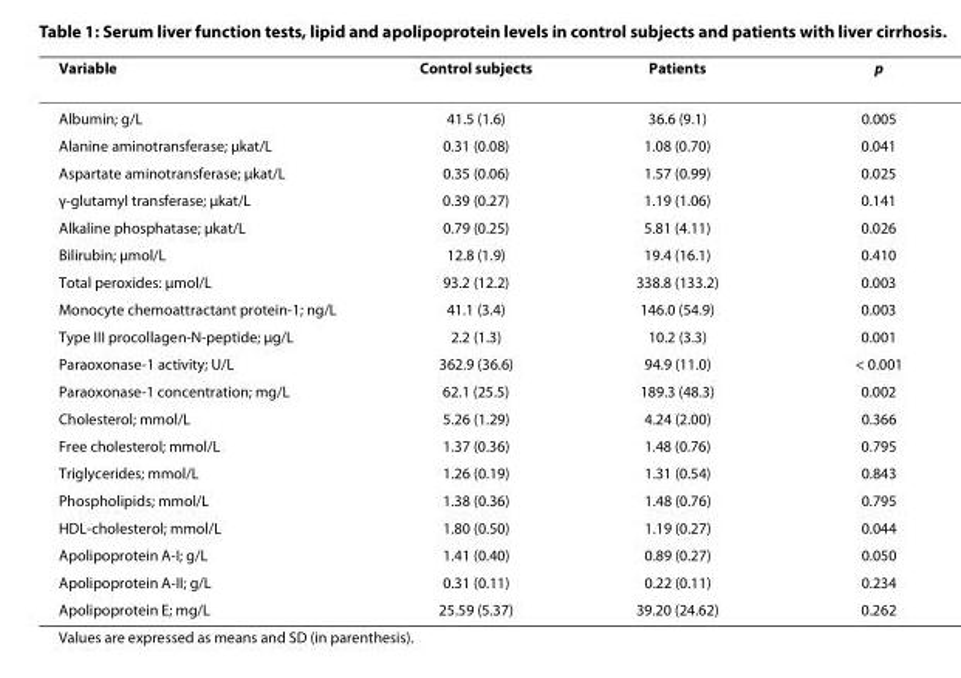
<table><thead><tr><td>Variable</td><td>Control subjects</td><td>Patients</td><td>p</td></tr></thead><tbody><tr><td>Albumin; g/L</td><td>41.5 (1.6)</td><td>36.6 (9.1)</td><td>0.005</td></tr><tr><td>Alanine aminotransferase; μkat/L</td><td>0.31 (0.08)</td><td>1.08 (0.70)</td><td>0.041</td></tr><tr><td>Aspartate aminotransferase; μkat/L</td><td>0.35 (0.06)</td><td>1.57 (0.99)</td><td>0.025</td></tr><tr><td>γ-glutamyl transferase; μkat/L</td><td>0.39 (0.27)</td><td>1.19 (1.06)</td><td>0.141</td></tr><tr><td>Alkaline phosphatase; μkat/L</td><td>0.79 (0.25)</td><td>5.81 (4.11)</td><td>0.026</td></tr><tr><td>Bilirubin; μmol/L</td><td>12.8 (1.9)</td><td>19.4 (16.1)</td><td>0.410</td></tr><tr><td>Total peroxides: μmol/L</td><td>93.2 (12.2)</td><td>338.8 (133.2)</td><td>0.003</td></tr><tr><td>Monocyte chemoattractant protein-1; ng/L</td><td>41.1 (3.4)</td><td>146.0 (54.9)</td><td>0.003</td></tr><tr><td>Type III procollagen-N-peptide; μg/L</td><td>2.2 (1.3)</td><td>10.2 (3.3)</td><td>0.001</td></tr><tr><td>Paraoxonase-1 activity; U/L</td><td>362.9 (36.6)</td><td>94.9 (11.0)</td><td>&lt; 0.001</td></tr><tr><td>Paraoxonase-1 concentration; mg/L</td><td>62.1 (25.5)</td><td>189.3 (48.3)</td><td>0.002</td></tr><tr><td>Cholesterol; mmol/L</td><td>5.26 (1.29)</td><td>4.24 (2.00)</td><td>0.366</td></tr><tr><td>Free cholesterol; mmol/L</td><td>1.37 (0.36)</td><td>1.48 (0.76)</td><td>0.795</td></tr><tr><td>Triglycerides; mmol/L</td><td>1.26 (0.19)</td><td>1.31 (0.54)</td><td>0.843</td></tr><tr><td>Phospholipids; mmol/L</td><td>1.38 (0.36)</td><td>1.48 (0.76)</td><td>0.795</td></tr><tr><td>HDL-cholesterol; mmol/L</td><td>1.80 (0.50)</td><td>1.19 (0.27)</td><td>0.044</td></tr><tr><td>Apolipoprotein A-I; g/L</td><td>1.41 (0.40)</td><td>0.89 (0.27)</td><td>0.050</td></tr><tr><td>Apolipoprotein A-II; g/L</td><td>0.31 (0.11)</td><td>0.22 (0.11)</td><td>0.234</td></tr><tr><td>Apolipoprotein E; mg/L</td><td>25.59 (5.37)</td><td>39.20 (24.62)</td><td>0.262</td></tr></tbody></table>